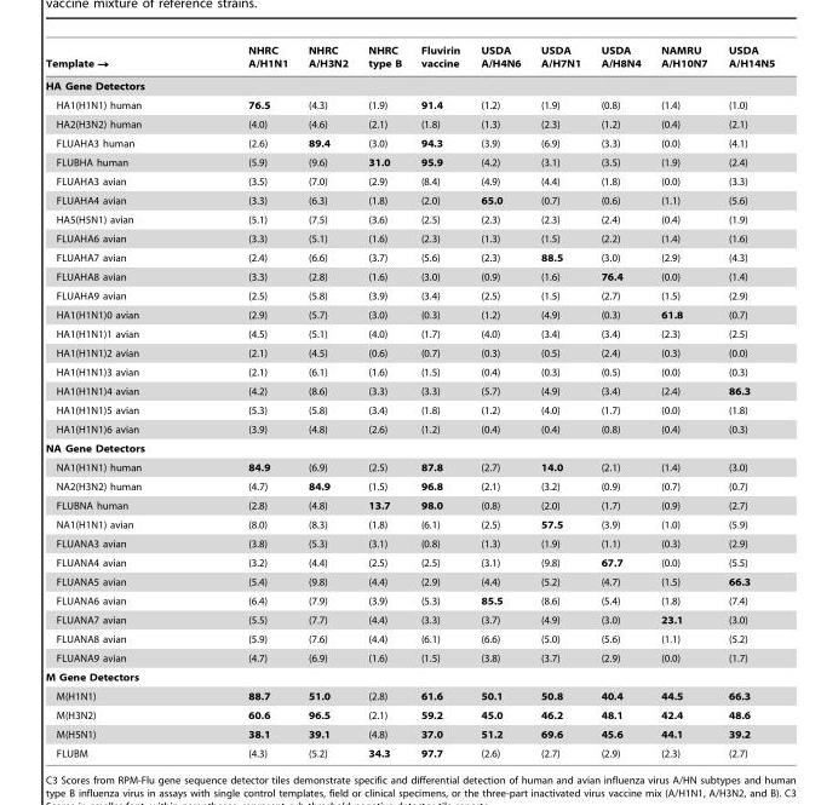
<table><thead><tr><td>Template →</td><td>NHRC A/H1N1</td><td>NHRC A/H3N2</td><td>NHRC type B</td><td>Fluvirin vaccine</td><td>USDA A/H4N6</td><td>USDA A/H7N1</td><td>USDA A/H8N4</td><td>NAMRU A/H10N7</td><td>USDA A/H14N5</td></tr></thead><tbody><tr><td colspan="10">HA Gene Detectors</td></tr><tr><td>HA1(H1N1) human</td><td>76.5</td><td>(4.3)</td><td>(1.9)</td><td>91.4</td><td>(1.2)</td><td>(1.9)</td><td>(0.8)</td><td>(1.4)</td><td>(1.0)</td></tr><tr><td>HA2(H3N2) human</td><td>(4.0)</td><td>(4.6)</td><td>(2.1)</td><td>(1.8)</td><td>(1.3)</td><td>(2.3)</td><td>(1.2)</td><td>(0.4)</td><td>(2.1)</td></tr><tr><td>FLUAHA3 human</td><td>(2.6)</td><td>89.4</td><td>(3.0)</td><td>94.3</td><td>(3.9)</td><td>(6.9)</td><td>(3.3)</td><td>(0.0)</td><td>(4.1)</td></tr><tr><td>FLUBHA human</td><td>(5.9)</td><td>(9.6)</td><td>31.0</td><td>95.9</td><td>(4.2)</td><td>(3.1)</td><td>(3.5)</td><td>(1.9)</td><td>(2.4)</td></tr><tr><td>FLUAHA3 avian</td><td>(3.5)</td><td>(7.0)</td><td>(2.9)</td><td>(8.4)</td><td>(4.9)</td><td>(4.4)</td><td>(1.8)</td><td>(0.0)</td><td>(3.3)</td></tr><tr><td>FLUAHA4 avian</td><td>(3.3)</td><td>(6.3)</td><td>(1.8)</td><td>(2.0)</td><td>65.0</td><td>(0.7)</td><td>(0.6)</td><td>(1.1)</td><td>(5.6)</td></tr><tr><td>HA5(H5N1) avian</td><td>(5.1)</td><td>(7.5)</td><td>(3.6)</td><td>(2.5)</td><td>(2.3)</td><td>(2.3)</td><td>(2.4)</td><td>(0.4)</td><td>(1.9)</td></tr><tr><td>FLUAHA6 avian</td><td>(3.3)</td><td>(5.1)</td><td>(1.6)</td><td>(2.3)</td><td>(1.3)</td><td>(1.5)</td><td>(2.2)</td><td>(1.4)</td><td>(1.6)</td></tr><tr><td>FLUAHA7 avian</td><td>(2.4)</td><td>(6.6)</td><td>(3.7)</td><td>(5.6)</td><td>(2.3)</td><td>88.5</td><td>(3.0)</td><td>(2.9)</td><td>(4.3)</td></tr><tr><td>FLUAHA8 avian</td><td>(3.3)</td><td>(2.8)</td><td>(1.6)</td><td>(3.0)</td><td>(0.9)</td><td>(1.6)</td><td>76.4</td><td>(0.0)</td><td>(1.4)</td></tr><tr><td>FLUAHA9 avian</td><td>(2.5)</td><td>(5.8)</td><td>(3.9)</td><td>(3.4)</td><td>(2.5)</td><td>(1.5)</td><td>(2.7)</td><td>(1.5)</td><td>(2.9)</td></tr><tr><td>HA1(H1N1)0 avian</td><td>(2.9)</td><td>(5.7)</td><td>(3.0)</td><td>(0.3)</td><td>(1.2)</td><td>(4.9)</td><td>(0.3)</td><td>61.8</td><td>(0.7)</td></tr><tr><td>HA1(H1N1)1 avian</td><td>(4.5)</td><td>(5.1)</td><td>(4.0)</td><td>(1.7)</td><td>(4.0)</td><td>(3.4)</td><td>(3.4)</td><td>(2.3)</td><td>(2.5)</td></tr><tr><td>HA1(H1N1)2 avian</td><td>(2.1)</td><td>(4.5)</td><td>(0.6)</td><td>(0.7)</td><td>(0.3)</td><td>(0.5)</td><td>(2.4)</td><td>(0.3)</td><td>(0.0)</td></tr><tr><td>HA1(H1N1)3 avian</td><td>(2.1)</td><td>(6.1)</td><td>(1.6)</td><td>(1.5)</td><td>(0.4)</td><td>(0.3)</td><td>(0.5)</td><td>(0.0)</td><td>(0.3)</td></tr><tr><td>HA1(H1N1)4 avian</td><td>(4.2)</td><td>(8.6)</td><td>(3.3)</td><td>(3.3)</td><td>(5.7)</td><td>(4.9)</td><td>(3.4)</td><td>(2.4)</td><td>86.3</td></tr><tr><td>HA1(H1N1)5 avian</td><td>(5.3)</td><td>(5.8)</td><td>(3.4)</td><td>(1.8)</td><td>(1.2)</td><td>(4.0)</td><td>(1.7)</td><td>(0.0)</td><td>(1.8)</td></tr><tr><td>HA1(H1N1)6 avian</td><td>(3.9)</td><td>(4.8)</td><td>(2.6)</td><td>(1.2)</td><td>(0.4)</td><td>(0.4)</td><td>(0.8)</td><td>(0.4)</td><td>(0.3)</td></tr><tr><td colspan="10">NA Gene Detectors</td></tr><tr><td>NA1(H1N1) human</td><td>84.9</td><td>(6.9)</td><td>(2.5)</td><td>87.8</td><td>(2.7)</td><td>14.0</td><td>(2.1)</td><td>(1.4)</td><td>(3.0)</td></tr><tr><td>NA2(H3N2) human</td><td>(4.7)</td><td>84.9</td><td>(1.5)</td><td>96.8</td><td>(2.1)</td><td>(3.2)</td><td>(0.9)</td><td>(0.7)</td><td>(0.7)</td></tr><tr><td>FLUBNA human</td><td>(2.8)</td><td>(4.8)</td><td>13.7</td><td>98.0</td><td>(0.8)</td><td>(2.0)</td><td>(1.7)</td><td>(0.9)</td><td>(2.7)</td></tr><tr><td>NA1(H1N1) avian</td><td>(8.0)</td><td>(8.3)</td><td>(1.8)</td><td>(6.1)</td><td>(2.5)</td><td>57.5</td><td>(3.9)</td><td>(1.0)</td><td>(5.9)</td></tr><tr><td>FLUANA3 avian</td><td>(3.8)</td><td>(5.3)</td><td>(3.1)</td><td>(0.8)</td><td>(1.3)</td><td>(1.9)</td><td>(1.1)</td><td>(0.3)</td><td>(2.9)</td></tr><tr><td>FLUANA4 avian</td><td>(3.2)</td><td>(4.4)</td><td>(2.5)</td><td>(2.5)</td><td>(3.1)</td><td>(9.8)</td><td>67.7</td><td>(0.0)</td><td>(5.5)</td></tr><tr><td>FLUANA5 avian</td><td>(5.4)</td><td>(9.8)</td><td>(4.4)</td><td>(2.9)</td><td>(4.4)</td><td>(5.2)</td><td>(4.7)</td><td>(1.5)</td><td>66.3</td></tr><tr><td>FLUANA6 avian</td><td>(6.4)</td><td>(7.9)</td><td>(3.9)</td><td>(5.3)</td><td>85.5</td><td>(8.6)</td><td>(5.4)</td><td>(1.8)</td><td>(7.4)</td></tr><tr><td>FLUANA7 avian</td><td>(5.5)</td><td>(7.7)</td><td>(4.4)</td><td>(3.3)</td><td>(3.7)</td><td>(4.9)</td><td>(3.0)</td><td>23.1</td><td>(3.0)</td></tr><tr><td>FLUANA8 avian</td><td>(5.9)</td><td>(7.6)</td><td>(4.4)</td><td>(6.1)</td><td>(6.6)</td><td>(5.0)</td><td>(5.6)</td><td>(1.1)</td><td>(5.2)</td></tr><tr><td>FLUANA9 avian</td><td>(4.7)</td><td>(6.9)</td><td>(1.6)</td><td>(1.5)</td><td>(3.8)</td><td>(3.7)</td><td>(2.9)</td><td>(0.0)</td><td>(1.7)</td></tr><tr><td colspan="10">M Gene Detectors</td></tr><tr><td>M(H1N1)</td><td>88.7</td><td>51.0</td><td>(2.8)</td><td>61.6</td><td>50.1</td><td>50.8</td><td>40.4</td><td>44.5</td><td>66.3</td></tr><tr><td>M(H3N2)</td><td>60.6</td><td>96.5</td><td>(2.1)</td><td>59.2</td><td>45.0</td><td>46.2</td><td>48.1</td><td>42.4</td><td>48.6</td></tr><tr><td>M(H5N1)</td><td>38.1</td><td>39.1</td><td>(4.8)</td><td>37.0</td><td>51.2</td><td>69.6</td><td>45.6</td><td>44.1</td><td>39.2</td></tr><tr><td>FLUBM</td><td>(4.3)</td><td>(5.2)</td><td>34.3</td><td>97.7</td><td>(2.6)</td><td>(2.7)</td><td>(2.9)</td><td>(2.3)</td><td>(2.7)</td></tr></tbody></table>